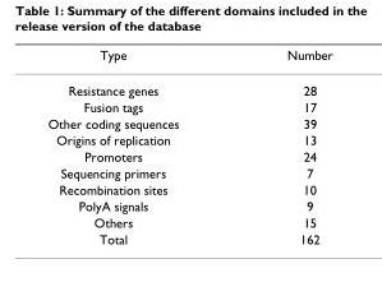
<table><thead><tr><td>Type</td><td>Number</td></tr></thead><tbody><tr><td>Resistance genes</td><td>28</td></tr><tr><td>Fusion tags</td><td>17</td></tr><tr><td>Other coding sequences</td><td>39</td></tr><tr><td>Origins of replication</td><td>13</td></tr><tr><td>Promoters</td><td>24</td></tr><tr><td>Sequencing primers</td><td>7</td></tr><tr><td>Recombination sites</td><td>10</td></tr><tr><td>PolyA signals</td><td>9</td></tr><tr><td>Others</td><td>15</td></tr><tr><td>Total</td><td>162</td></tr></tbody></table>